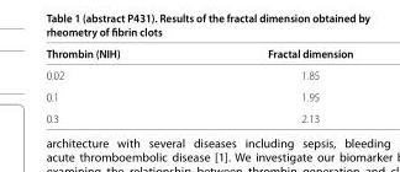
<table><thead><tr><td>Thrombin (NIH)</td><td>Fractal dimension</td></tr></thead><tbody><tr><td>0.02</td><td>1.85</td></tr><tr><td>0.1</td><td>1.95</td></tr><tr><td>0.3</td><td>2.13</td></tr></tbody></table>